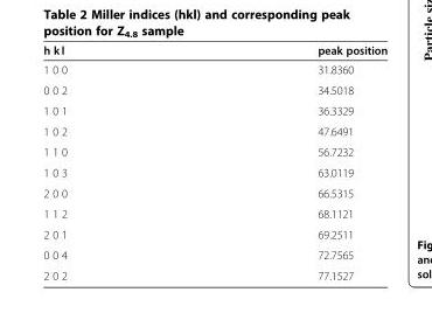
<table><thead><tr><td>h k l</td><td>peak position</td></tr></thead><tbody><tr><td>1 0 0</td><td>31.8360</td></tr><tr><td>0 0 2</td><td>34.5018</td></tr><tr><td>1 0 1</td><td>36.3329</td></tr><tr><td>1 0 2</td><td>47.6491</td></tr><tr><td>1 1 0</td><td>56.7232</td></tr><tr><td>1 0 3</td><td>63.0119</td></tr><tr><td>2 0 0</td><td>66.5315</td></tr><tr><td>1 1 2</td><td>68.1121</td></tr><tr><td>2 0 1</td><td>69.2511</td></tr><tr><td>0 0 4</td><td>72.7565</td></tr><tr><td>2 0 2</td><td>77.1527</td></tr></tbody></table>